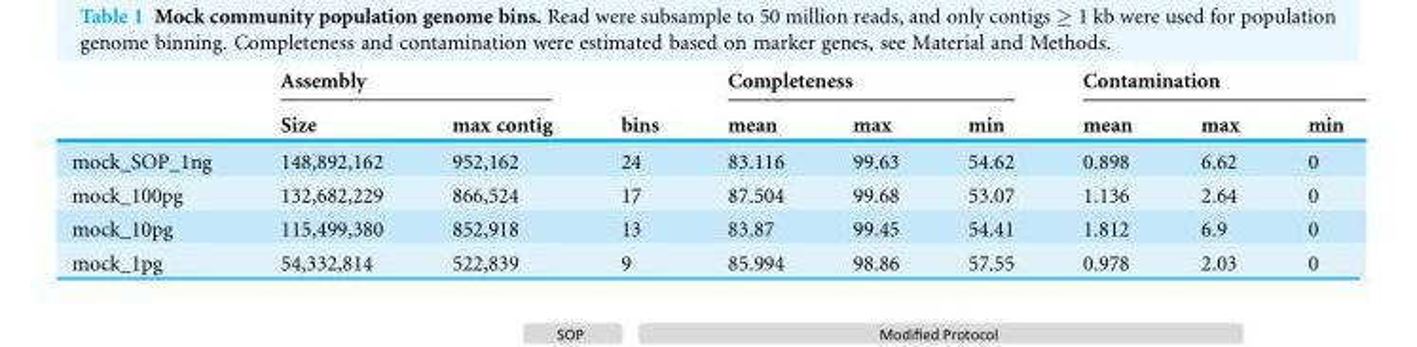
<table><thead><tr><td rowspan="2"></td><td colspan="2">Assembly</td><td rowspan="2">bins</td><td colspan="3">Completeness</td><td colspan="3">Contamination</td></tr><tr><td>Size</td><td>max contig</td><td>mean</td><td>max</td><td>min</td><td>mean</td><td>max</td><td>min</td></tr></thead><tbody><tr><td>mock_SOP_1ng</td><td>148,892,162</td><td>952,162</td><td>24</td><td>83.116</td><td>99.63</td><td>54.62</td><td>0.898</td><td>6.62</td><td>0</td></tr><tr><td>mock_100pg</td><td>132,682,229</td><td>866,524</td><td>17</td><td>87.504</td><td>99.68</td><td>53.07</td><td>1.136</td><td>2.64</td><td>0</td></tr><tr><td>mock_10pg</td><td>115,499,380</td><td>852,918</td><td>13</td><td>83.87</td><td>99.45</td><td>54.41</td><td>1.812</td><td>6.9</td><td>0</td></tr><tr><td>mock_1pg</td><td>54,332,814</td><td>522,839</td><td>9</td><td>85.994</td><td>98.86</td><td>57.55</td><td>0.978</td><td>2.03</td><td>0</td></tr></tbody></table>